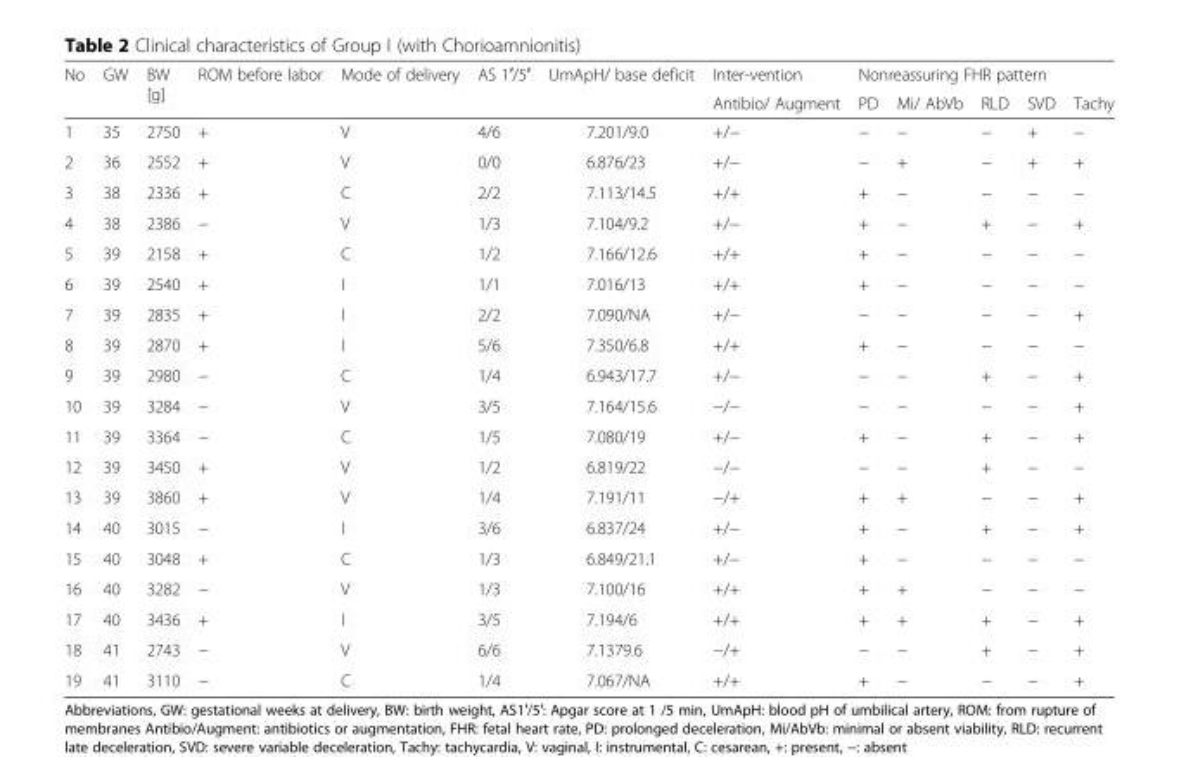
<table><thead><tr><td rowspan="2">No</td><td rowspan="2">GW</td><td rowspan="2">BW [g]</td><td rowspan="2">ROM before labor</td><td rowspan="2">Mode of delivery</td><td rowspan="2">AS 1′/5′</td><td rowspan="2">UmApH/ base deficit</td><td rowspan="2">Inter-vention Antibio/ Augment</td><td colspan="5">Nonreassuring FHR pattern</td></tr><tr><td>PD</td><td>Mi/ AbVb</td><td>RLD</td><td>SVD</td><td>Tachy</td></tr></thead><tbody><tr><td>1</td><td>35</td><td>2750</td><td>+</td><td>V</td><td>4/6</td><td>7.201/9.0</td><td>+/−</td><td>−</td><td>−</td><td>−</td><td>+</td><td>−</td></tr><tr><td>2</td><td>36</td><td>2552</td><td>+</td><td>V</td><td>0/0</td><td>6.876/23</td><td>+/−</td><td>−</td><td>+</td><td>−</td><td>+</td><td>+</td></tr><tr><td>3</td><td>38</td><td>2336</td><td>+</td><td>C</td><td>2/2</td><td>7.113/14.5</td><td>+/+</td><td>+</td><td>−</td><td>−</td><td>−</td><td>−</td></tr><tr><td>4</td><td>38</td><td>2386</td><td>−</td><td>V</td><td>1/3</td><td>7.104/9.2</td><td>+/−</td><td>+</td><td>−</td><td>+</td><td>−</td><td>+</td></tr><tr><td>5</td><td>39</td><td>2158</td><td>+</td><td>C</td><td>1/2</td><td>7.166/12.6</td><td>+/+</td><td>+</td><td>−</td><td>−</td><td>−</td><td>−</td></tr><tr><td>6</td><td>39</td><td>2540</td><td>+</td><td>I</td><td>1/1</td><td>7.016/13</td><td>+/+</td><td>+</td><td>−</td><td>−</td><td>−</td><td>−</td></tr><tr><td>7</td><td>39</td><td>2835</td><td>+</td><td>I</td><td>2/2</td><td>7.090/NA</td><td>+/−</td><td>−</td><td>−</td><td>−</td><td>−</td><td>+</td></tr><tr><td>8</td><td>39</td><td>2870</td><td>+</td><td>I</td><td>5/6</td><td>7.350/6.8</td><td>+/+</td><td>+</td><td>−</td><td>−</td><td>−</td><td>−</td></tr><tr><td>9</td><td>39</td><td>2980</td><td>−</td><td>C</td><td>1/4</td><td>6.943/17.7</td><td>+/−</td><td>−</td><td>−</td><td>+</td><td>−</td><td>+</td></tr><tr><td>10</td><td>39</td><td>3284</td><td>−</td><td>V</td><td>3/5</td><td>7.164/15.6</td><td>−/−</td><td>−</td><td>−</td><td>−</td><td>−</td><td>+</td></tr><tr><td>11</td><td>39</td><td>3364</td><td>−</td><td>C</td><td>1/5</td><td>7.080/19</td><td>+/−</td><td>+</td><td>−</td><td>+</td><td>−</td><td>+</td></tr><tr><td>12</td><td>39</td><td>3450</td><td>+</td><td>V</td><td>1/2</td><td>6.819/22</td><td>−/−</td><td>−</td><td>−</td><td>+</td><td>−</td><td>−</td></tr><tr><td>13</td><td>39</td><td>3860</td><td>+</td><td>V</td><td>1/4</td><td>7.191/11</td><td>−/+</td><td>+</td><td>+</td><td>−</td><td>−</td><td>+</td></tr><tr><td>14</td><td>40</td><td>3015</td><td>−</td><td>I</td><td>3/6</td><td>6.837/24</td><td>+/−</td><td>+</td><td>−</td><td>+</td><td>−</td><td>+</td></tr><tr><td>15</td><td>40</td><td>3048</td><td>+</td><td>C</td><td>1/3</td><td>6.849/21.1</td><td>+/−</td><td>+</td><td>−</td><td>−</td><td>−</td><td>−</td></tr><tr><td>16</td><td>40</td><td>3282</td><td>−</td><td>V</td><td>1/3</td><td>7.100/16</td><td>+/+</td><td>+</td><td>+</td><td>−</td><td>−</td><td>−</td></tr><tr><td>17</td><td>40</td><td>3436</td><td>+</td><td>I</td><td>3/5</td><td>7.194/6</td><td>+/+</td><td>+</td><td>+</td><td>+</td><td>−</td><td>+</td></tr><tr><td>18</td><td>41</td><td>2743</td><td>−</td><td>V</td><td>6/6</td><td>7.1379.6</td><td>−/+</td><td>−</td><td>−</td><td>+</td><td>−</td><td>+</td></tr><tr><td>19</td><td>41</td><td>3110</td><td>−</td><td>C</td><td>1/4</td><td>7.067/NA</td><td>+/+</td><td>+</td><td>−</td><td>−</td><td>−</td><td>+</td></tr></tbody></table>